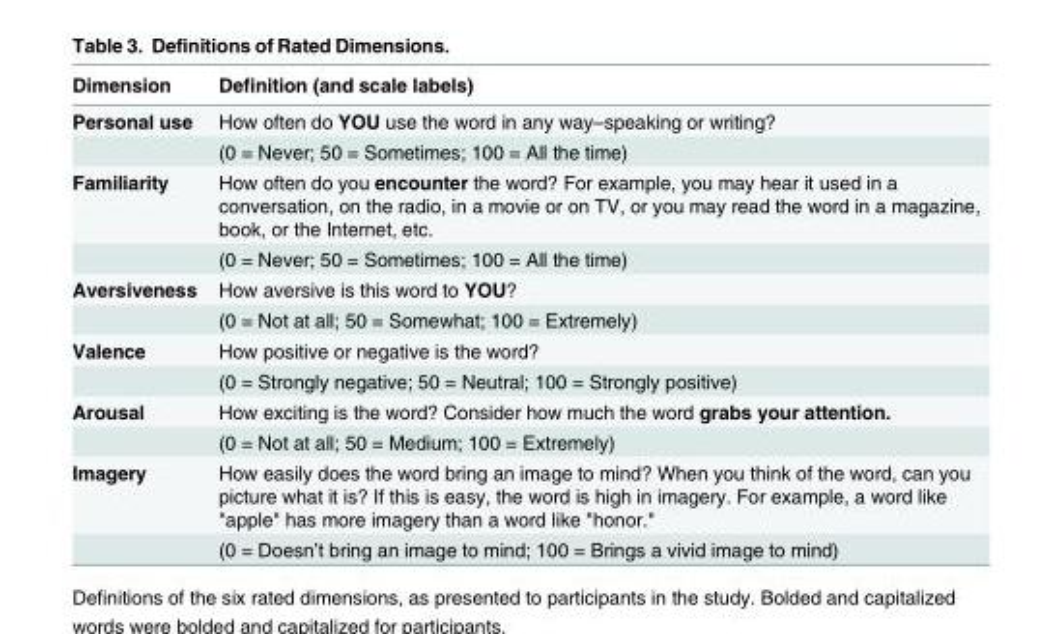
<table><thead><tr><td>Dimension</td><td>Definition (and scale labels)</td></tr></thead><tbody><tr><td rowspan="2">Personal use</td><td>How often do YOU use the word in any way–speaking or writing?</td></tr><tr><td>(0 = Never; 50 = Sometimes; 100 = All the time)</td></tr><tr><td rowspan="2">Familiarity</td><td>How often do you encounter the word? For example, you may hear it used in a conversation, on the radio, in a movie or on TV, or you may read the word in a magazine, book, or the Internet, etc.</td></tr><tr><td>(0 = Never; 50 = Sometimes; 100 = All the time)</td></tr><tr><td rowspan="2">Aversiveness</td><td>How aversive is this word to YOU?</td></tr><tr><td>(0 = Not at all; 50 = Somewhat; 100 = Extremely)</td></tr><tr><td rowspan="2">Valence</td><td>How positive or negative is the word?</td></tr><tr><td>(0 = Strongly negative; 50 = Neutral; 100 = Strongly positive)</td></tr><tr><td rowspan="2">Arousal</td><td>How exciting is the word? Consider how much the word grabs your attention.</td></tr><tr><td>(0 = Not at all; 50 = Medium; 100 = Extremely)</td></tr><tr><td rowspan="2">Imagery</td><td>How easily does the word bring an image to mind? When you think of the word, can you picture what it is? If this is easy, the word is high in imagery. For example, a word like &quot;apple&quot; has more imagery than a word like &quot;honor.&quot;</td></tr><tr><td>(0 = Doesn’t bring an image to mind; 100 = Brings a vivid image to mind)</td></tr></tbody></table>